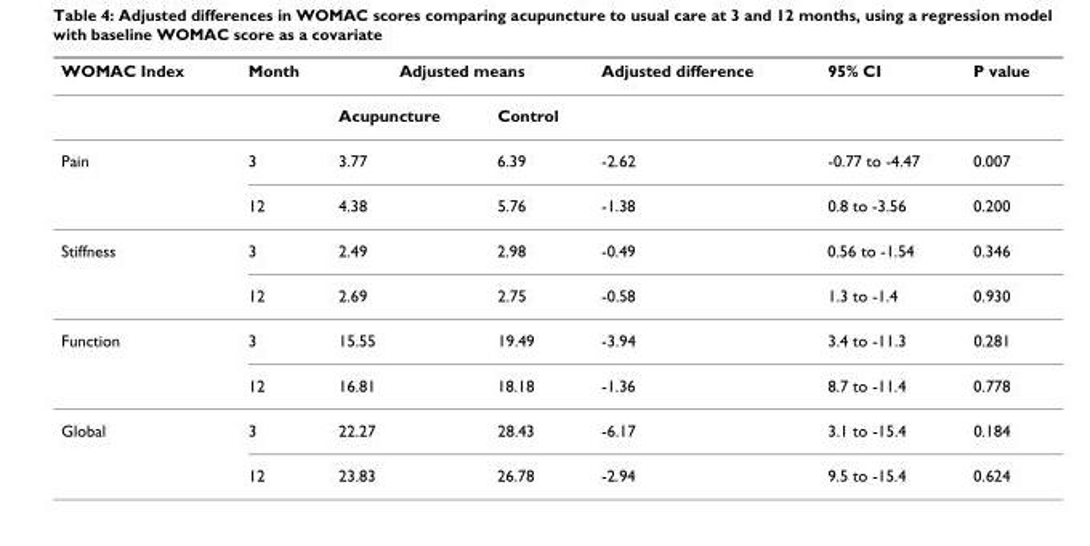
<table><thead><tr><td rowspan="2">WOMAC Index</td><td rowspan="2">Month</td><td colspan="2">Adjusted means</td><td rowspan="2">Adjusted difference</td><td rowspan="2">95% CI</td><td rowspan="2">P value</td></tr><tr><td>Acupuncture</td><td>Control</td></tr></thead><tbody><tr><td rowspan="2">Pain</td><td>3</td><td>3.77</td><td>6.39</td><td>-2.62</td><td>-0.77 to -4.47</td><td>0.007</td></tr><tr><td>12</td><td>4.38</td><td>5.76</td><td>-1.38</td><td>0.8 to -3.56</td><td>0.200</td></tr><tr><td rowspan="2">Stiffness</td><td>3</td><td>2.49</td><td>2.98</td><td>-0.49</td><td>0.56 to -1.54</td><td>0.346</td></tr><tr><td>12</td><td>2.69</td><td>2.75</td><td>-0.58</td><td>1.3 to -1.4</td><td>0.930</td></tr><tr><td rowspan="2">Function</td><td>3</td><td>15.55</td><td>19.49</td><td>-3.94</td><td>3.4 to -11.3</td><td>0.281</td></tr><tr><td>12</td><td>16.81</td><td>18.18</td><td>-1.36</td><td>8.7 to -11.4</td><td>0.778</td></tr><tr><td rowspan="2">Global</td><td>3</td><td>22.27</td><td>28.43</td><td>-6.17</td><td>3.1 to -15.4</td><td>0.184</td></tr><tr><td>12</td><td>23.83</td><td>26.78</td><td>-2.94</td><td>9.5 to -15.4</td><td>0.624</td></tr></tbody></table>